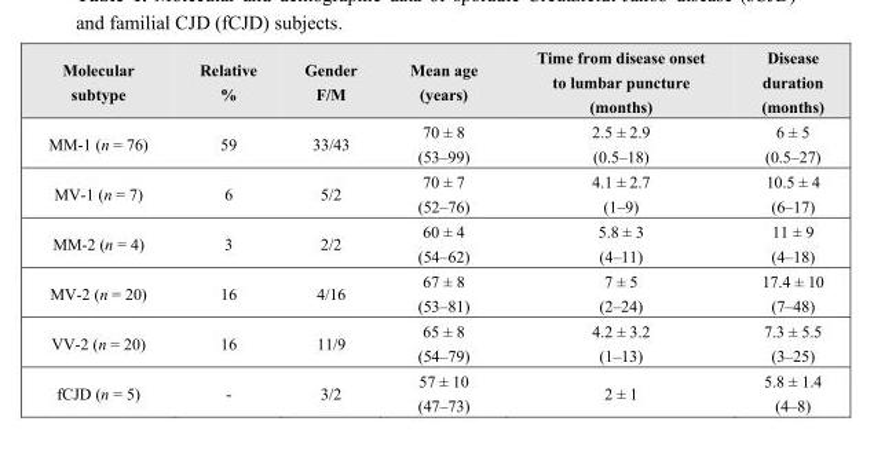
<table><thead><tr><td>Molecular subtype</td><td>Relative %</td><td>Gender F/M</td><td>Mean age (years)</td><td>Time from disease onset to lumbar puncture (months)</td><td>Disease duration (months)</td></tr></thead><tbody><tr><td>MM-1 (n = 76)</td><td>59</td><td>33/43</td><td>70 ± 8 (53–99)</td><td>2.5 ± 2.9 (0.5–18)</td><td>6 ± 5 (0.5–27)</td></tr><tr><td>MV-1 (n = 7)</td><td>6</td><td>5/2</td><td>70 ± 7 (52–76)</td><td>4.1 ± 2.7 (1–9)</td><td>10.5 ± 4 (6–17)</td></tr><tr><td>MM-2 (n = 4)</td><td>3</td><td>2/2</td><td>60 ± 4 (54–62)</td><td>5.8 ± 3 (4–11)</td><td>11 ± 9 (4–18)</td></tr><tr><td>MV-2 (n = 20)</td><td>16</td><td>4/16</td><td>67 ± 8 (53–81)</td><td>7 ± 5 (2–24)</td><td>17.4 ± 10 (7–48)</td></tr><tr><td>VV-2 (n = 20)</td><td>16</td><td>11/9</td><td>65 ± 8 (54–79)</td><td>4.2 ± 3.2 (1–13)</td><td>7.3 ± 5.5 (3–25)</td></tr><tr><td>fCJD (n = 5)</td><td>-</td><td>3/2</td><td>57 ± 10 (47–73)</td><td>2 ± 1</td><td>5.8 ± 1.4 (4–8)</td></tr></tbody></table>